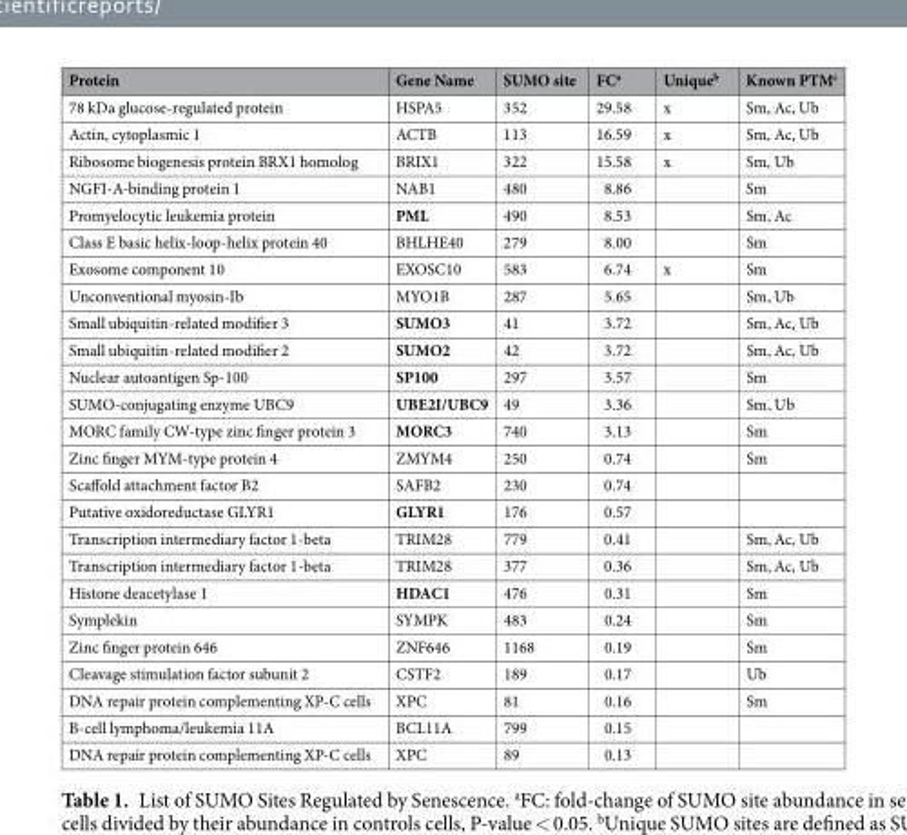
<table><thead><tr><td>Protein</td><td>Gene Name</td><td>SUMO site</td><td>FC<sup>a</sup></td><td>Unique<sup>b</sup></td><td>Known PTM<sup>c</sup></td></tr></thead><tbody><tr><td>78 kDa glucose-regulated protein</td><td>HSPA5</td><td>352</td><td>29.58</td><td>x</td><td>Sm, Ac, Ub</td></tr><tr><td>Actin, cytoplasmic 1</td><td>ACTB</td><td>113</td><td>16.59</td><td>x</td><td>Sm, Ac, Ub</td></tr><tr><td>Ribosome biogenesis protein BRX1 homolog</td><td>BRIX1</td><td>322</td><td>15.58</td><td>x</td><td>Sm, Ub</td></tr><tr><td>NGFI-A-binding protein 1</td><td>NAB1</td><td>480</td><td>8.86</td><td></td><td>Sm</td></tr><tr><td>Promyelocytic leukemia protein</td><td>PML</td><td>490</td><td>8.53</td><td></td><td>Sm, Ac</td></tr><tr><td>Class E basic helix-loop-helix protein 40</td><td>BHLHE40</td><td>279</td><td>8.00</td><td></td><td>Sm</td></tr><tr><td>Exosome component 10</td><td>EXOSC10</td><td>583</td><td>6.74</td><td>x</td><td>Sm</td></tr><tr><td>Unconventional myosin-Ib</td><td>MYO1B</td><td>287</td><td>5.65</td><td></td><td>Sm, Ub</td></tr><tr><td>Small ubiquitin-related modifier 3</td><td>SUMO3</td><td>41</td><td>3.72</td><td></td><td>Sm, Ac, Ub</td></tr><tr><td>Small ubiquitin-related modifier 2</td><td>SUMO2</td><td>42</td><td>3.72</td><td></td><td>Sm, Ac, Ub</td></tr><tr><td>Nuclear autoantigen Sp-100</td><td>SP100</td><td>297</td><td>3.57</td><td></td><td>Sm</td></tr><tr><td>SUMO-conjugating enzyme UBC9</td><td>UBE2I/UBC9</td><td>49</td><td>3.36</td><td></td><td>Sm, Ub</td></tr><tr><td>MORC family CW-type zinc finger protein 3</td><td>MORC3</td><td>740</td><td>3.13</td><td></td><td>Sm</td></tr><tr><td>Zinc finger MYM-type protein 4</td><td>ZMYM4</td><td>250</td><td>0.74</td><td></td><td>Sm</td></tr><tr><td>Scaffold attachment factor B2</td><td>SAFB2</td><td>230</td><td>0.74</td><td></td><td></td></tr><tr><td>Putative oxidoreductase GLYR1</td><td>GLYR1</td><td>176</td><td>0.57</td><td></td><td></td></tr><tr><td>Transcription intermediary factor 1-beta</td><td>TRIM28</td><td>779</td><td>0.41</td><td></td><td>Sm, Ac, Ub</td></tr><tr><td>Transcription intermediary factor 1-beta</td><td>TRIM28</td><td>377</td><td>0.36</td><td></td><td>Sm, Ac, Ub</td></tr><tr><td>Histone deacetylase 1</td><td>HDAC1</td><td>476</td><td>0.31</td><td></td><td>Sm</td></tr><tr><td>Symplekin</td><td>SYMPK</td><td>483</td><td>0.24</td><td></td><td>Sm</td></tr><tr><td>Zinc finger protein 646</td><td>ZNF646</td><td>1168</td><td>0.19</td><td></td><td>Sm</td></tr><tr><td>Cleavage stimulation factor subunit 2</td><td>CSTF2</td><td>189</td><td>0.17</td><td></td><td>Ub</td></tr><tr><td>DNA repair protein complementing XP-C cells</td><td>XPC</td><td>81</td><td>0.16</td><td></td><td>Sm</td></tr><tr><td>B-cell lymphoma/leukemia 11A</td><td>BCL11A</td><td>799</td><td>0.15</td><td></td><td></td></tr><tr><td>DNA repair protein complementing XP-C cells</td><td>XPC</td><td>89</td><td>0.13</td><td></td><td></td></tr></tbody></table>